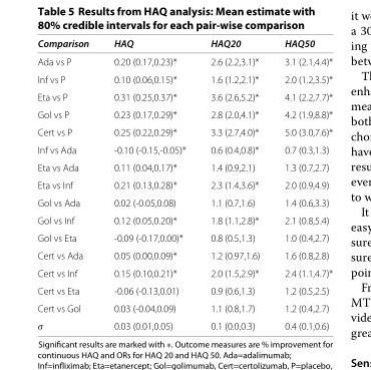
<table><thead><tr><td>Comparison</td><td>HAQ</td><td>HAQ20</td><td>HAQ50</td></tr></thead><tbody><tr><td>Ada vs P</td><td>0.20 (0.17,0.23)*</td><td>2.6 (2.2,3.1)*</td><td>3.1 (2.1,4.4)*</td></tr><tr><td>Inf vs P</td><td>0.10 (0.06,0.15)*</td><td>1.6 (1.2,2.1)*</td><td>2.0 (1.2,3.5)*</td></tr><tr><td>Eta vs P</td><td>0.31 (0.25,0.37)*</td><td>3.6 (2.6,5.2)*</td><td>4.1 (2.2,7.7)*</td></tr><tr><td>Gol vs P</td><td>0.23 (0.17,0.29)*</td><td>2.8 (2.0,4.1)*</td><td>4.2 (1.9,8.8)*</td></tr><tr><td>Cert vs P</td><td>0.25 (0.22,0.29)*</td><td>3.3 (2.7,4.0)*</td><td>5.0 (3.0,7.6)*</td></tr><tr><td>Inf vs Ada</td><td>-0.10 (-0.15,-0.05)*</td><td>0.6 (0.4,0.8)*</td><td>0.7 (0.3,1.3)</td></tr><tr><td>Eta vs Ada</td><td>0.11 (0.04,0.17)*</td><td>1.4 (0.9,2.1)</td><td>1.3 (0.7,2.7)</td></tr><tr><td>Eta vs Inf</td><td>0.21 (0.13,0.28)*</td><td>2.3 (1.4,3.6)*</td><td>2.0 (0.9,4.9)</td></tr><tr><td>Gol vs Ada</td><td>0.02 (-0.05,0.08)</td><td>1.1 (0.7,1.6)</td><td>1.4 (0.6,3.3)</td></tr><tr><td>Gol vs Inf</td><td>0.12 (0.05,0.20)*</td><td>1.8 (1.1,2.8)*</td><td>2.1 (0.8,5.4)</td></tr><tr><td>Gol vs Eta</td><td>-0.09 (-0.17,0.00)*</td><td>0.8 (0.5,1.3)</td><td>1.0 (0.4,2.7)</td></tr><tr><td>Cert vs Ada</td><td>0.05 (0.00,0.09)*</td><td>1.2 (0.97,1.6)</td><td>1.6 (0.8,2.8)</td></tr><tr><td>Cert vs Inf</td><td>0.15 (0.10,0.21)*</td><td>2.0 (1.5,2.9)*</td><td>2.4 (1.1,4.7)*</td></tr><tr><td>Cert vs Eta</td><td>-0.06 (-0.13,0.01)</td><td>0.9 (0.6,1.3)</td><td>1.2 (0.5,2.5)</td></tr><tr><td>Cert vs Gol</td><td>0.03 (-0.04,0.09)</td><td>1.1 (0.8,1.7)</td><td>1.2 (0.4,2.7)</td></tr><tr><td>σ</td><td>0.03 (0.01,0.05)</td><td>0.1 (0.0,0.3)</td><td>0.4 (0.1,0.6)</td></tr></tbody></table>